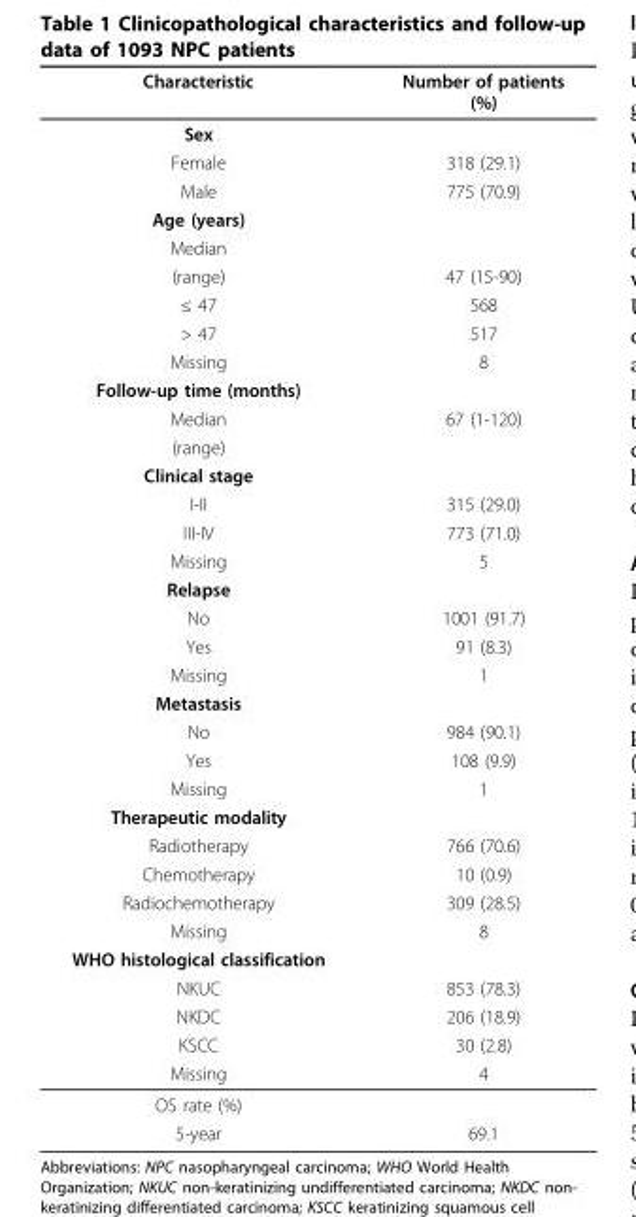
<table><thead><tr><td>Characteristic</td><td>Number of patients (%)</td></tr></thead><tbody><tr><td colspan="2">Sex</td></tr><tr><td>Female</td><td>318 (29.1)</td></tr><tr><td>Male</td><td>775 (70.9)</td></tr><tr><td colspan="2">Age (years)</td></tr><tr><td colspan="2">Median</td></tr><tr><td>(range)</td><td>47 (15-90)</td></tr><tr><td>≤ 47</td><td>568</td></tr><tr><td>&gt; 47</td><td>517</td></tr><tr><td>Missing</td><td>8</td></tr><tr><td colspan="2">Follow-up time (months)</td></tr><tr><td>Median</td><td>67 (1-120)</td></tr><tr><td colspan="2">(range)</td></tr><tr><td colspan="2">Clinical stage</td></tr><tr><td>I-II</td><td>315 (29.0)</td></tr><tr><td>III-IV</td><td>773 (71.0)</td></tr><tr><td>Missing</td><td>5</td></tr><tr><td colspan="2">Relapse</td></tr><tr><td>No</td><td>1001 (91.7)</td></tr><tr><td>Yes</td><td>91 (8.3)</td></tr><tr><td>Missing</td><td>1</td></tr><tr><td colspan="2">Metastasis</td></tr><tr><td>No</td><td>984 (90.1)</td></tr><tr><td>Yes</td><td>108 (9.9)</td></tr><tr><td>Missing</td><td>1</td></tr><tr><td colspan="2">Therapeutic modality</td></tr><tr><td>Radiotherapy</td><td>766 (70.6)</td></tr><tr><td>Chemotherapy</td><td>10 (0.9)</td></tr><tr><td>Radiochemotherapy</td><td>309 (28.5)</td></tr><tr><td>Missing</td><td>8</td></tr><tr><td colspan="2">WHO histological classification</td></tr><tr><td>NKUC</td><td>853 (78.3)</td></tr><tr><td>NKDC</td><td>206 (18.9)</td></tr><tr><td>KSCC</td><td>30 (2.8)</td></tr><tr><td>Missing</td><td>4</td></tr><tr><td colspan="2">OS rate (%)</td></tr><tr><td>5-year</td><td>69.1</td></tr></tbody></table>